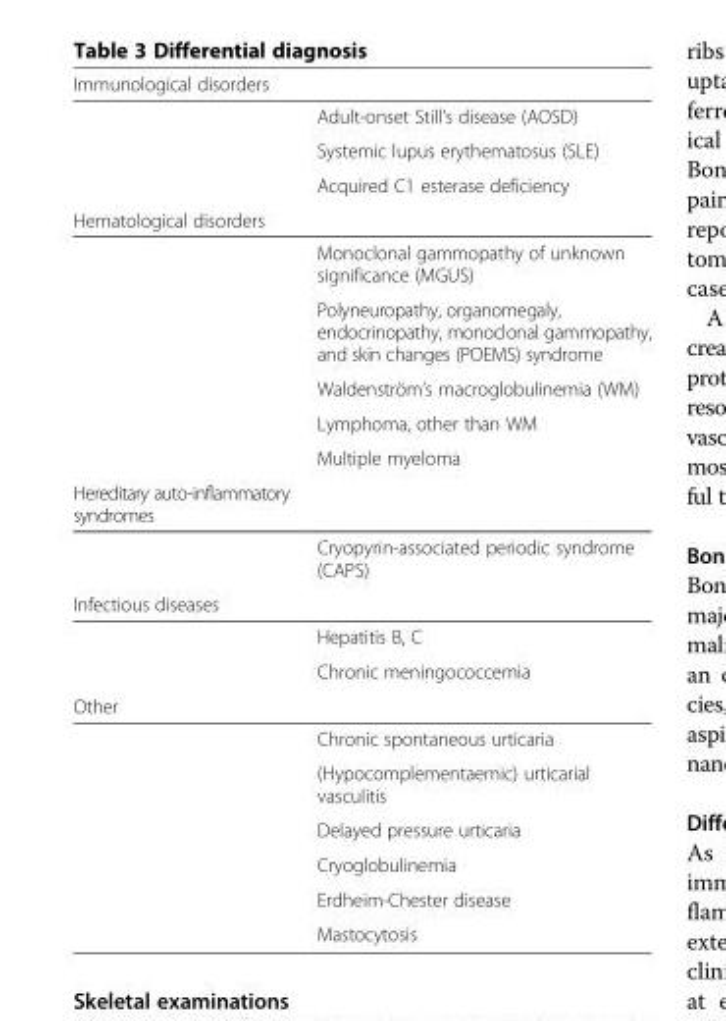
<table><tbody><tr><td colspan="2">Immunological disorders</td></tr><tr><td></td><td>Adult-onset Still’s disease (AOSD)</td></tr><tr><td></td><td>Systemic lupus erythematosus (SLE)</td></tr><tr><td></td><td>Acquired C1 esterase deficiency</td></tr><tr><td colspan="2">Hematological disorders</td></tr><tr><td></td><td>Monoclonal gammopathy of unknown significance (MGUS)</td></tr><tr><td></td><td>Polyneuropathy, organomegaly, endocrinopathy, monoclonal gammopathy, and skin changes (POEMS) syndrome</td></tr><tr><td></td><td>Waldenström’s macroglobulinemia (WM)</td></tr><tr><td></td><td>Lymphoma, other than WM</td></tr><tr><td></td><td>Multiple myeloma</td></tr><tr><td colspan="2">Hereditary auto-inflammatory syndromes</td></tr><tr><td></td><td>Cryopyrin-associated periodic syndrome (CAPS)</td></tr><tr><td colspan="2">Infectious diseases</td></tr><tr><td></td><td>Hepatitis B, C</td></tr><tr><td></td><td>Chronic meningococcemia</td></tr><tr><td colspan="2">Other</td></tr><tr><td></td><td>Chronic spontaneous urticaria</td></tr><tr><td></td><td>(Hypocomplementaemic) urticarial vasculitis</td></tr><tr><td></td><td>Delayed pressure urticaria</td></tr><tr><td></td><td>Cryoglobulinemia</td></tr><tr><td></td><td>Erdheim-Chester disease</td></tr><tr><td></td><td>Mastocytosis</td></tr></tbody></table>